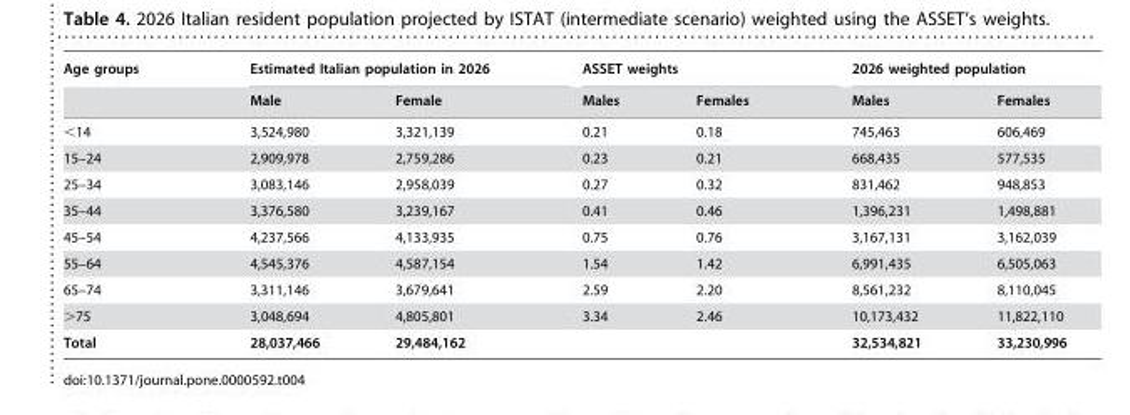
<table><thead><tr><td rowspan="2">Age groups</td><td colspan="2">Estimated Italian population in 2026</td><td colspan="2">ASSET weights</td><td colspan="2">2026 weighted population</td></tr><tr><td>Male</td><td>Female</td><td>Males</td><td>Females</td><td>Males</td><td>Females</td></tr></thead><tbody><tr><td>&lt;14</td><td>3,524,980</td><td>3,321,139</td><td>0.21</td><td>0.18</td><td>745,463</td><td>606,469</td></tr><tr><td>15–24</td><td>2,909,978</td><td>2,759,286</td><td>0.23</td><td>0.21</td><td>668,435</td><td>577,535</td></tr><tr><td>25–34</td><td>3,083,146</td><td>2,958,039</td><td>0.27</td><td>0.32</td><td>831,462</td><td>948,853</td></tr><tr><td>35–44</td><td>3,376,580</td><td>3,239,167</td><td>0.41</td><td>0.46</td><td>1,396,231</td><td>1,498,881</td></tr><tr><td>45–54</td><td>4,237,566</td><td>4,133,935</td><td>0.75</td><td>0.76</td><td>3,167,131</td><td>3,162,039</td></tr><tr><td>55–64</td><td>4,545,376</td><td>4,587,154</td><td>1.54</td><td>1.42</td><td>6,991,435</td><td>6,505,063</td></tr><tr><td>65–74</td><td>3,311,146</td><td>3,679,641</td><td>2.59</td><td>2.20</td><td>8,561,232</td><td>8,110,045</td></tr><tr><td>&gt;75</td><td>3,048,694</td><td>4,805,801</td><td>3.34</td><td>2.46</td><td>10,173,432</td><td>11,822,110</td></tr><tr><td>Total</td><td>28,037,466</td><td>29,484,162</td><td></td><td></td><td>32,534,821</td><td>33,230,996</td></tr></tbody></table>